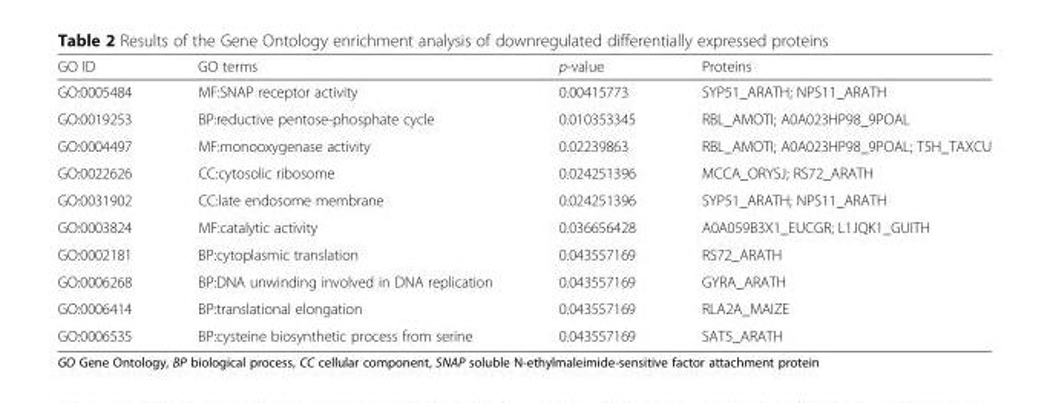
<table><thead><tr><td>GO ID</td><td>GO terms</td><td>p-value</td><td>Proteins</td></tr></thead><tbody><tr><td>GO:0005484</td><td>MF:SNAP receptor activity</td><td>0.00415773</td><td>SYP51_ARATH; NPS11_ARATH</td></tr><tr><td>GO:0019253</td><td>BP:reductive pentose-phosphate cycle</td><td>0.010353345</td><td>RBL_AMOTI; A0A023HP98_9POAL</td></tr><tr><td>GO:0004497</td><td>MF:monooxygenase activity</td><td>0.02239863</td><td>RBL_AMOTI; A0A023HP98_9POAL; T5H_TAXCU</td></tr><tr><td>GO:0022626</td><td>CC:cytosolic ribosome</td><td>0.024251396</td><td>MCCA_ORYSJ; RS72_ARATH</td></tr><tr><td>GO:0031902</td><td>CC:late endosome membrane</td><td>0.024251396</td><td>SYP51_ARATH; NPS11_ARATH</td></tr><tr><td>GO:0003824</td><td>MF:catalytic activity</td><td>0.036656428</td><td>A0A059B3X1_EUCGR; L1JQK1_GUITH</td></tr><tr><td>GO:0002181</td><td>BP:cytoplasmic translation</td><td>0.043557169</td><td>RS72_ARATH</td></tr><tr><td>GO:0006268</td><td>BP:DNA unwinding involved in DNA replication</td><td>0.043557169</td><td>GYRA_ARATH</td></tr><tr><td>GO:0006414</td><td>BP:translational elongation</td><td>0.043557169</td><td>RLA2A_MAIZE</td></tr><tr><td>GO:0006535</td><td>BP:cysteine biosynthetic process from serine</td><td>0.043557169</td><td>SAT5_ARATH</td></tr></tbody></table>